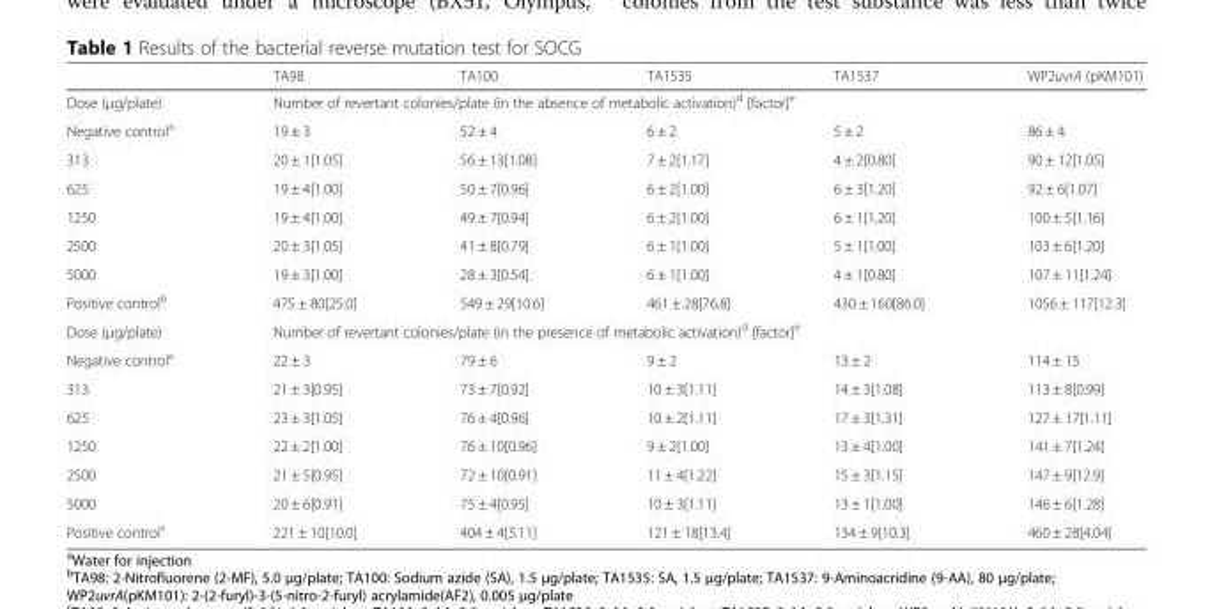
<table><thead><tr><td></td><td>TA98</td><td>TA100</td><td>TA1535</td><td>TA1537</td><td>WP2uvrA (pKM101)</td></tr></thead><tbody><tr><td>Dose (μg/plate)</td><td colspan="5">Number of revertant colonies/plate (in the absence of metabolic activation)<sup>d</sup> [factor]<sup>e</sup></td></tr><tr><td>Negative control<sup>a</sup></td><td>19 ± 3</td><td>52 ± 4</td><td>6 ± 2</td><td>5 ± 2</td><td>86 ± 4</td></tr><tr><td>313</td><td>20 ± 1[1.05]</td><td>56 ± 13[1.08]</td><td>7 ± 2[1.17]</td><td>4 ± 2[0.80]</td><td>90 ± 12[1.05]</td></tr><tr><td>625</td><td>19 ± 4[1.00]</td><td>50 ± 7[0.96]</td><td>6 ± 2[1.00]</td><td>6 ± 3[1.20]</td><td>92 ± 6[1.07]</td></tr><tr><td>1250</td><td>19 ± 4[1.00]</td><td>49 ± 7[0.94]</td><td>6 ± 2[1.00]</td><td>6 ± 1[1.20]</td><td>100 ± 5[1.16]</td></tr><tr><td>2500</td><td>20 ± 3[1.05]</td><td>41 ± 8[0.79]</td><td>6 ± 1[1.00]</td><td>5 ± 1[1.00]</td><td>103 ± 6[1.20]</td></tr><tr><td>5000</td><td>19 ± 3[1.00]</td><td>28 ± 3[0.54]</td><td>6 ± 1[1.00]</td><td>4 ± 1[0.80]</td><td>107 ± 11[1.24]</td></tr><tr><td>Positive control<sup>b</sup></td><td>475 ± 80[25.0]</td><td>549 ± 29[10.6]</td><td>461 ± 28[76.8]</td><td>430 ± 160[86.0]</td><td>1056 ± 117[12.3]</td></tr><tr><td>Dose (μg/plate)</td><td colspan="5">Number of revertant colonies/plate (in the presence of metabolic activation)<sup>d</sup> [factor]<sup>e</sup></td></tr><tr><td>Negative control<sup>a</sup></td><td>22 ± 3</td><td>79 ± 6</td><td>9 ± 2</td><td>13 ± 2</td><td>114 ± 15</td></tr><tr><td>313</td><td>21 ± 3[0.95]</td><td>73 ± 7[0.92]</td><td>10 ± 3[1.11]</td><td>14 ± 3[1.08]</td><td>113 ± 8[0.99]</td></tr><tr><td>625</td><td>23 ± 3[1.05]</td><td>76 ± 4[0.96]</td><td>10 ± 2[1.11]</td><td>17 ± 3[1.31]</td><td>127 ± 17[1.11]</td></tr><tr><td>1250</td><td>22 ± 2[1.00]</td><td>76 ± 10[0.96]</td><td>9 ± 2[1.00]</td><td>13 ± 4[1.00]</td><td>141 ± 7[1.24]</td></tr><tr><td>2500</td><td>21 ± 5[0.95]</td><td>72 ± 10[0.91]</td><td>11 ± 4[1.22]</td><td>15 ± 3[1.15]</td><td>147 ± 9[12.9]</td></tr><tr><td>5000</td><td>20 ± 6[0.91]</td><td>75 ± 4[0.95]</td><td>10 ± 3[1.11]</td><td>13 ± 1[1.00]</td><td>146 ± 6[1.28]</td></tr><tr><td>Positive control<sup>c</sup></td><td>221 ± 10[10.0]</td><td>404 ± 4[5.11]</td><td>121 ± 18[13.4]</td><td>134 ± 9[10.3]</td><td>460 ± 28[4.04]</td></tr></tbody></table>